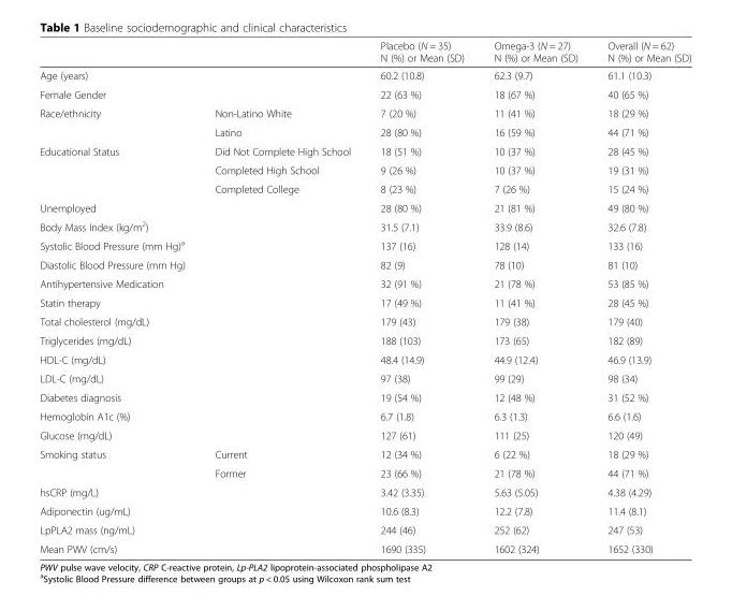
<table><thead><tr><td></td><td></td><td>Placebo (N = 35) N (%) or Mean (SD)</td><td>Omega-3 (N = 27) N (%) or Mean (SD)</td><td>Overall (N = 62) N (%) or Mean (SD)</td></tr></thead><tbody><tr><td>Age (years)</td><td></td><td>60.2 (10.8)</td><td>62.3 (9.7)</td><td>61.1 (10.3)</td></tr><tr><td>Female Gender</td><td></td><td>22 (63 %)</td><td>18 (67 %)</td><td>40 (65 %)</td></tr><tr><td rowspan="2">Race/ethnicity</td><td>Non-Latino White</td><td>7 (20 %)</td><td>11 (41 %)</td><td>18 (29 %)</td></tr><tr><td>Latino</td><td>28 (80 %)</td><td>16 (59 %)</td><td>44 (71 %)</td></tr><tr><td rowspan="3">Educational Status</td><td>Did Not Complete High School</td><td>18 (51 %)</td><td>10 (37 %)</td><td>28 (45 %)</td></tr><tr><td>Completed High School</td><td>9 (26 %)</td><td>10 (37 %)</td><td>19 (31 %)</td></tr><tr><td>Completed College</td><td>8 (23 %)</td><td>7 (26 %)</td><td>15 (24 %)</td></tr><tr><td>Unemployed</td><td></td><td>28 (80 %)</td><td>21 (81 %)</td><td>49 (80 %)</td></tr><tr><td>Body Mass Index (kg/m<sup>2</sup>)</td><td></td><td>31.5 (7.1)</td><td>33.9 (8.6)</td><td>32.6 (7.8)</td></tr><tr><td>Systolic Blood Pressure (mm Hg)<sup>a</sup></td><td></td><td>137 (16)</td><td>128 (14)</td><td>133 (16)</td></tr><tr><td>Diastolic Blood Pressure (mm Hg)</td><td></td><td>82 (9)</td><td>78 (10)</td><td>81 (10)</td></tr><tr><td>Antihypertensive Medication</td><td></td><td>32 (91 %)</td><td>21 (78 %)</td><td>53 (85 %)</td></tr><tr><td>Statin therapy</td><td></td><td>17 (49 %)</td><td>11 (41 %)</td><td>28 (45 %)</td></tr><tr><td>Total cholesterol (mg/dL)</td><td></td><td>179 (43)</td><td>179 (38)</td><td>179 (40)</td></tr><tr><td>Triglycerides (mg/dL)</td><td></td><td>188 (103)</td><td>173 (65)</td><td>182 (89)</td></tr><tr><td>HDL-C (mg/dL)</td><td></td><td>48.4 (14.9)</td><td>44.9 (12.4)</td><td>46.9 (13.9)</td></tr><tr><td>LDL-C (mg/dL)</td><td></td><td>97 (38)</td><td>99 (29)</td><td>98 (34)</td></tr><tr><td>Diabetes diagnosis</td><td></td><td>19 (54 %)</td><td>12 (48 %)</td><td>31 (52 %)</td></tr><tr><td>Hemoglobin A1c (%)</td><td></td><td>6.7 (1.8)</td><td>6.3 (1.3)</td><td>6.6 (1.6)</td></tr><tr><td>Glucose (mg/dL)</td><td></td><td>127 (61)</td><td>111 (25)</td><td>120 (49)</td></tr><tr><td rowspan="2">Smoking status</td><td>Current</td><td>12 (34 %)</td><td>6 (22 %)</td><td>18 (29 %)</td></tr><tr><td>Former</td><td>23 (66 %)</td><td>21 (78 %)</td><td>44 (71 %)</td></tr><tr><td>hsCRP (mg/L)</td><td></td><td>3.42 (3.35)</td><td>5.63 (5.05)</td><td>4.38 (4.29)</td></tr><tr><td>Adiponectin (ug/mL)</td><td></td><td>10.6 (8.3)</td><td>12.2 (7.8)</td><td>11.4 (8.1)</td></tr><tr><td>LpPLA2 mass (ng/mL)</td><td></td><td>244 (46)</td><td>252 (62)</td><td>247 (53)</td></tr><tr><td>Mean PWV (cm/s)</td><td></td><td>1690 (335)</td><td>1602 (324)</td><td>1652 (330)</td></tr></tbody></table>